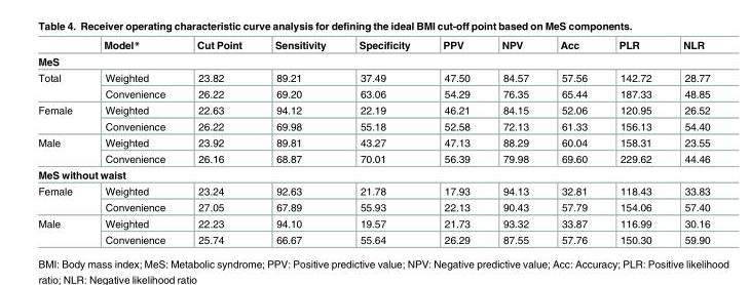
<table><thead><tr><td></td><td>Model*</td><td>Cut Point</td><td>Sensitivity</td><td>Specificity</td><td>PPV</td><td>NPV</td><td>Acc</td><td>PLR</td><td>NLR</td></tr></thead><tbody><tr><td colspan="10">MeS</td></tr><tr><td rowspan="2">Total</td><td>Weighted</td><td>23.82</td><td>89.21</td><td>37.49</td><td>47.50</td><td>84.57</td><td>57.56</td><td>142.72</td><td>28.77</td></tr><tr><td>Convenience</td><td>26.22</td><td>69.20</td><td>63.06</td><td>54.29</td><td>76.35</td><td>65.44</td><td>187.33</td><td>48.85</td></tr><tr><td rowspan="2">Female</td><td>Weighted</td><td>22.63</td><td>94.12</td><td>22.19</td><td>46.21</td><td>84.15</td><td>52.06</td><td>120.95</td><td>26.52</td></tr><tr><td>Convenience</td><td>26.22</td><td>69.98</td><td>55.18</td><td>52.58</td><td>72.13</td><td>61.33</td><td>156.13</td><td>54.40</td></tr><tr><td rowspan="2">Male</td><td>Weighted</td><td>23.92</td><td>89.81</td><td>43.27</td><td>47.13</td><td>88.29</td><td>60.04</td><td>158.31</td><td>23.55</td></tr><tr><td>Convenience</td><td>26.16</td><td>68.87</td><td>70.01</td><td>56.39</td><td>79.98</td><td>69.60</td><td>229.62</td><td>44.46</td></tr><tr><td colspan="10">MeS without waist</td></tr><tr><td rowspan="2">Female</td><td>Weighted</td><td>23.24</td><td>92.63</td><td>21.78</td><td>17.93</td><td>94.13</td><td>32.81</td><td>118.43</td><td>33.83</td></tr><tr><td>Convenience</td><td>27.05</td><td>67.89</td><td>55.93</td><td>22.13</td><td>90.43</td><td>57.79</td><td>154.06</td><td>57.40</td></tr><tr><td rowspan="2">Male</td><td>Weighted</td><td>22.23</td><td>94.10</td><td>19.57</td><td>21.73</td><td>93.32</td><td>33.87</td><td>116.99</td><td>30.16</td></tr><tr><td>Convenience</td><td>25.74</td><td>66.67</td><td>55.64</td><td>26.29</td><td>87.55</td><td>57.76</td><td>150.30</td><td>59.90</td></tr></tbody></table>